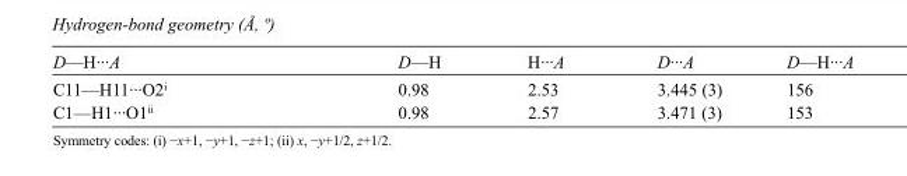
<table><tbody><tr><td>D—H···A</td><td>D—H</td><td>H···A</td><td>D···A</td><td>D—H···A</td></tr><tr><td>C11—H11···O2<sup>i</sup></td><td>0.98</td><td>2.53</td><td>3.445 (3)</td><td>156</td></tr><tr><td>C1—H1···O1<sup>ii</sup></td><td>0.98</td><td>2.57</td><td>3.471 (3)</td><td>153</td></tr></tbody></table>